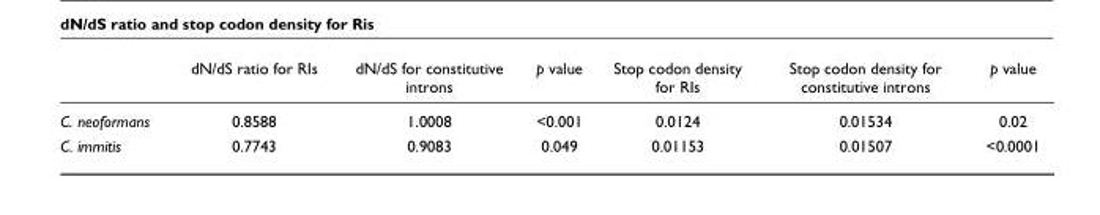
<table><thead><tr><td></td><td>dN/dS ratio for RIs</td><td>dN/dS for constitutive introns</td><td>p value</td><td>Stop codon density for RIs</td><td>Stop codon density for constitutive introns</td><td>p value</td></tr></thead><tbody><tr><td>C. neoformans</td><td>0.8588</td><td>1.0008</td><td>&lt;0.001</td><td>0.0124</td><td>0.01534</td><td>0.02</td></tr><tr><td>C. immitis</td><td>0.7743</td><td>0.9083</td><td>0.049</td><td>0.01153</td><td>0.01507</td><td>&lt;0.0001</td></tr></tbody></table>